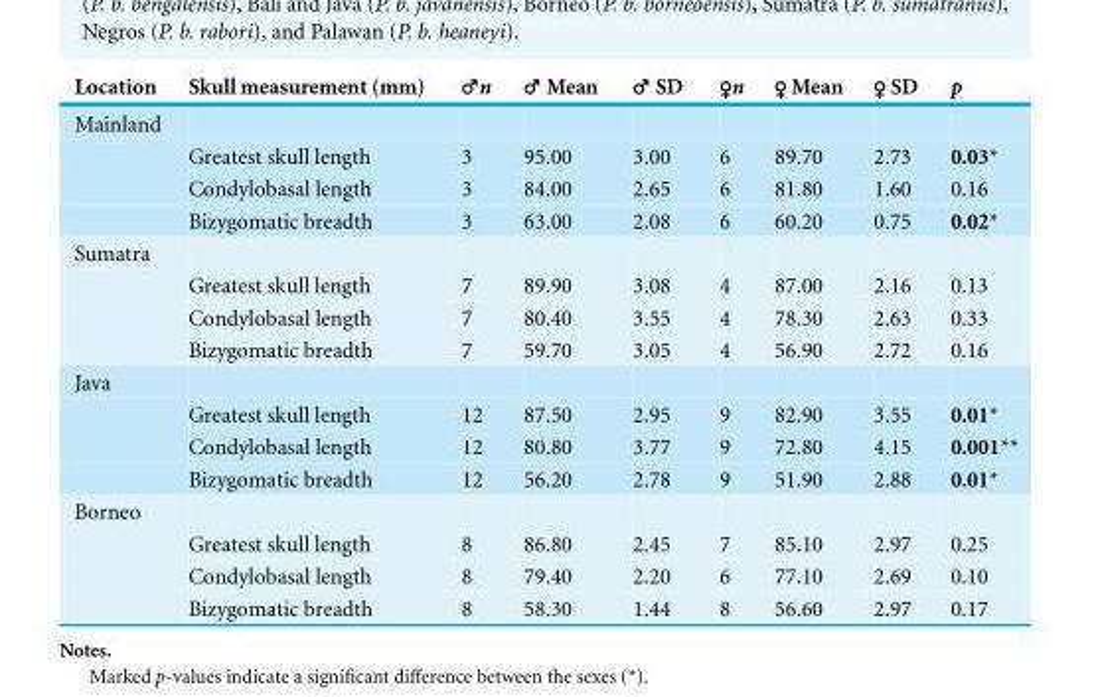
<table><thead><tr><td>Location</td><td>Skull measurement (mm)</td><td>♂n</td><td>♂ Mean</td><td>♂ SD</td><td>♀n</td><td>♀ Mean</td><td>♀ SD</td><td>p</td></tr></thead><tbody><tr><td colspan="9">Mainland</td></tr><tr><td></td><td>Greatest skull length</td><td>3</td><td>95.00</td><td>3.00</td><td>6</td><td>89.70</td><td>2.73</td><td>0.03*</td></tr><tr><td></td><td>Condylobasal length</td><td>3</td><td>84.00</td><td>2.65</td><td>6</td><td>81.80</td><td>1.60</td><td>0.16</td></tr><tr><td></td><td>Bizygomatic breadth</td><td>3</td><td>63.00</td><td>2.08</td><td>6</td><td>60.20</td><td>0.75</td><td>0.02*</td></tr><tr><td colspan="9">Sumatra</td></tr><tr><td></td><td>Greatest skull length</td><td>7</td><td>89.90</td><td>3.08</td><td>4</td><td>87.00</td><td>2.16</td><td>0.13</td></tr><tr><td></td><td>Condylobasal length</td><td>7</td><td>80.40</td><td>3.55</td><td>4</td><td>78.30</td><td>2.63</td><td>0.33</td></tr><tr><td></td><td>Bizygomatic breadth</td><td>7</td><td>59.70</td><td>3.05</td><td>4</td><td>56.90</td><td>2.72</td><td>0.16</td></tr><tr><td colspan="9">Java</td></tr><tr><td></td><td>Greatest skull length</td><td>12</td><td>87.50</td><td>2.95</td><td>9</td><td>82.90</td><td>3.55</td><td>0.01*</td></tr><tr><td></td><td>Condylobasal length</td><td>12</td><td>80.80</td><td>3.77</td><td>9</td><td>72.80</td><td>4.15</td><td>0.001**</td></tr><tr><td></td><td>Bizygomatic breadth</td><td>12</td><td>56.20</td><td>2.78</td><td>9</td><td>51.90</td><td>2.88</td><td>0.01*</td></tr><tr><td colspan="9">Borneo</td></tr><tr><td></td><td>Greatest skull length</td><td>8</td><td>86.80</td><td>2.45</td><td>7</td><td>85.10</td><td>2.97</td><td>0.25</td></tr><tr><td></td><td>Condylobasal length</td><td>8</td><td>79.40</td><td>2.20</td><td>6</td><td>77.10</td><td>2.69</td><td>0.10</td></tr><tr><td></td><td>Bizygomatic breadth</td><td>8</td><td>58.30</td><td>1.44</td><td>8</td><td>56.60</td><td>2.97</td><td>0.17</td></tr></tbody></table>